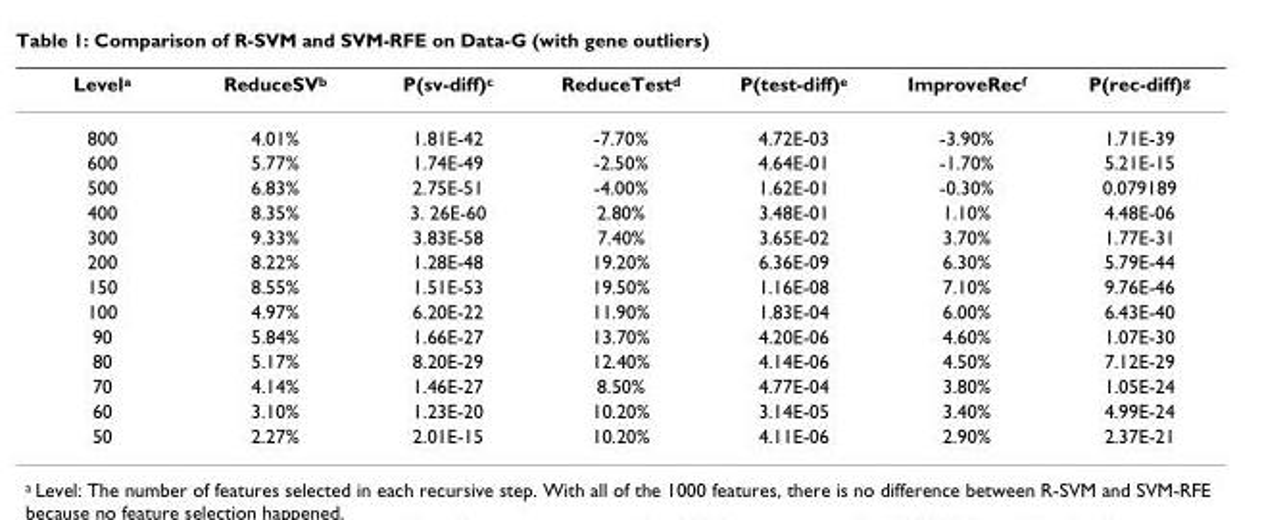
<table><thead><tr><td>Levela</td><td>ReduceSVb</td><td>P(sv-diff)c</td><td>ReduceTestd</td><td>P(test-diff)e</td><td>ImproveRecf</td><td>P(rec-diff)g</td></tr></thead><tbody><tr><td>800</td><td>4.01%</td><td>1.81E-42</td><td>-7.70%</td><td>4.72E-03</td><td>-3.90%</td><td>1.71E-39</td></tr><tr><td>600</td><td>5.77%</td><td>1.74E-49</td><td>-2.50%</td><td>4.64E-01</td><td>-1.70%</td><td>5.21E-15</td></tr><tr><td>500</td><td>6.83%</td><td>2.75E-51</td><td>-4.00%</td><td>1.62E-01</td><td>-0.30%</td><td>0.079189</td></tr><tr><td>400</td><td>8.35%</td><td>3. 26E-60</td><td>2.80%</td><td>3.48E-01</td><td>1.10%</td><td>4.48E-06</td></tr><tr><td>300</td><td>9.33%</td><td>3.83E-58</td><td>7.40%</td><td>3.65E-02</td><td>3.70%</td><td>1.77E-31</td></tr><tr><td>200</td><td>8.22%</td><td>1.28E-48</td><td>19.20%</td><td>6.36E-09</td><td>6.30%</td><td>5.79E-44</td></tr><tr><td>150</td><td>8.55%</td><td>1.51E-53</td><td>19.50%</td><td>1.16E-08</td><td>7.10%</td><td>9.76E-46</td></tr><tr><td>100</td><td>4.97%</td><td>6.20E-22</td><td>11.90%</td><td>1.83E-04</td><td>6.00%</td><td>6.43E-40</td></tr><tr><td>90</td><td>5.84%</td><td>1.66E-27</td><td>13.70%</td><td>4.20E-06</td><td>4.60%</td><td>1.07E-30</td></tr><tr><td>80</td><td>5.17%</td><td>8.20E-29</td><td>12.40%</td><td>4.14E-06</td><td>4.50%</td><td>7.12E-29</td></tr><tr><td>70</td><td>4.14%</td><td>1.46E-27</td><td>8.50%</td><td>4.77E-04</td><td>3.80%</td><td>1.05E-24</td></tr><tr><td>60</td><td>3.10%</td><td>1.23E-20</td><td>10.20%</td><td>3.14E-05</td><td>3.40%</td><td>4.99E-24</td></tr><tr><td>50</td><td>2.27%</td><td>2.01E-15</td><td>10.20%</td><td>4.11E-06</td><td>2.90%</td><td>2.37E-21</td></tr></tbody></table>